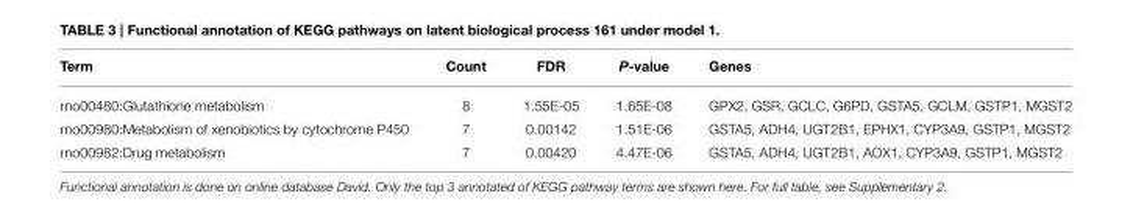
<table><thead><tr><td>Term</td><td>Count</td><td>FDR</td><td>P-value</td><td>Genes</td></tr></thead><tbody><tr><td>rno00480:Glutathione metabolism</td><td>8</td><td>1.55E-05</td><td>1.65E-08</td><td>GPX2, GSR, GCLC, G6PD, GSTA5, GCLM, GSTP1, MGST2</td></tr><tr><td>rno00980:Metabolism of xenobiotics by cytochrome P450</td><td>7</td><td>0.00142</td><td>1.51E-06</td><td>GSTA5, ADH4, UGT2B1, EPHX1, CYP3A9, GSTP1, MGST2</td></tr><tr><td>rno00982:Drug metabolism</td><td>7</td><td>0.00420</td><td>4.47E-06</td><td>GSTA5, ADH4, UGT2B1, AOX1, CYP3A9, GSTP1, MGST2</td></tr></tbody></table>